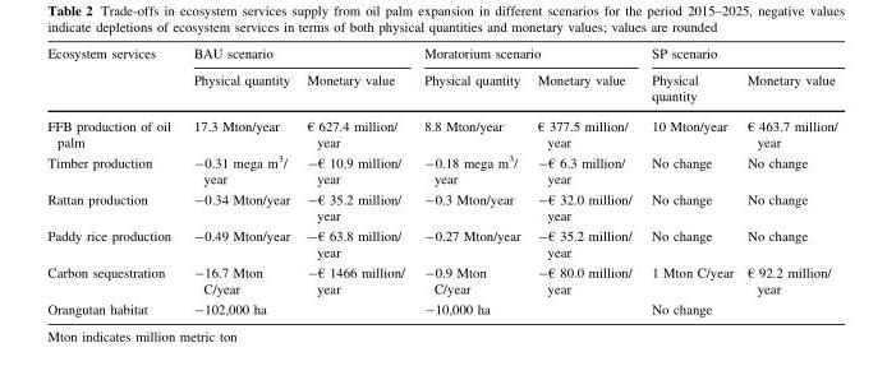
<table><thead><tr><td rowspan="2">Ecosystem services</td><td colspan="2">BAU scenario</td><td colspan="2">Moratorium scenario</td><td colspan="2">SP scenario</td></tr><tr><td>Physical quantity</td><td>Monetary value</td><td>Physical quantity</td><td>Monetary value</td><td>Physical quantity</td><td>Monetary value</td></tr></thead><tbody><tr><td>FFB production of oil palm</td><td>17.3 Mton/year</td><td>€ 627.4 million/ year</td><td>8.8 Mton/year</td><td>€ 377.5 million/ year</td><td>10 Mton/year</td><td>€ 463.7 million/ year</td></tr><tr><td>Timber production</td><td>-0.31 mega m<sup>3</sup>/ year</td><td>-€ 10.9 million/ year</td><td>-0.18 mega m<sup>3</sup>/ year</td><td>-€ 6.3 million/ year</td><td>No change</td><td>No change</td></tr><tr><td>Rattan production</td><td>-0.34 Mton/year</td><td>-€ 35.2 million/ year</td><td>-0.3 Mton/year</td><td>-€ 32.0 million/ year</td><td>No change</td><td>No change</td></tr><tr><td>Paddy rice production</td><td>-0.49 Mton/year</td><td>-€ 63.8 million/ year</td><td>-0.27 Mton/year</td><td>-€ 35.2 million/ year</td><td>No change</td><td>No change</td></tr><tr><td>Carbon sequestration</td><td>-16.7 Mton C/year</td><td>-€ 1466 million/ year</td><td>-0.9 Mton C/year</td><td>-€ 80.0 million/ year</td><td>1 Mton C/year</td><td>€ 92.2 million/ year</td></tr><tr><td>Orangutan habitat</td><td>-102,000 ha</td><td></td><td>-10,000 ha</td><td></td><td>No change</td><td></td></tr></tbody></table>